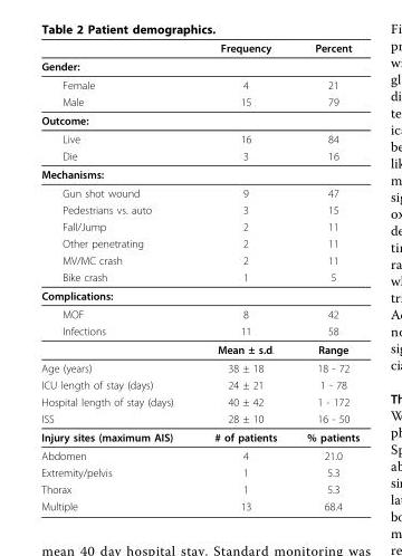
<table><thead><tr><td></td><td>Frequency</td><td>Percent</td></tr></thead><tbody><tr><td colspan="3">Gender:</td></tr><tr><td>Female</td><td>4</td><td>21</td></tr><tr><td>Male</td><td>15</td><td>79</td></tr><tr><td colspan="3">Outcome:</td></tr><tr><td>Live</td><td>16</td><td>84</td></tr><tr><td>Die</td><td>3</td><td>16</td></tr><tr><td colspan="3">Mechanisms:</td></tr><tr><td>Gun shot wound</td><td>9</td><td>47</td></tr><tr><td>Pedestrians vs. auto</td><td>3</td><td>15</td></tr><tr><td>Fall/Jump</td><td>2</td><td>11</td></tr><tr><td>Other penetrating</td><td>2</td><td>11</td></tr><tr><td>MV/MC crash</td><td>2</td><td>11</td></tr><tr><td>Bike crash</td><td>1</td><td>5</td></tr><tr><td colspan="3">Complications:</td></tr><tr><td>MOF</td><td>8</td><td>42</td></tr><tr><td rowspan="2">Infections</td><td>11</td><td>58</td></tr><tr><td>Mean ± s.d.</td><td>Range</td></tr><tr><td>Age (years)</td><td>38 ± 18</td><td>18 - 72</td></tr><tr><td>ICU length of stay (days)</td><td>24 ± 21</td><td>1 - 78</td></tr><tr><td>Hospital length of stay (days)</td><td>40 ± 42</td><td>1 - 172</td></tr><tr><td>ISS</td><td>28 ± 10</td><td>16 - 50</td></tr><tr><td>Injury sites (maximum AIS)</td><td># of patients</td><td>% patients</td></tr><tr><td>Abdomen</td><td>4</td><td>21.0</td></tr><tr><td>Extremity/pelvis</td><td>1</td><td>5.3</td></tr><tr><td>Thorax</td><td>1</td><td>5.3</td></tr><tr><td>Multiple</td><td>13</td><td>68.4</td></tr></tbody></table>